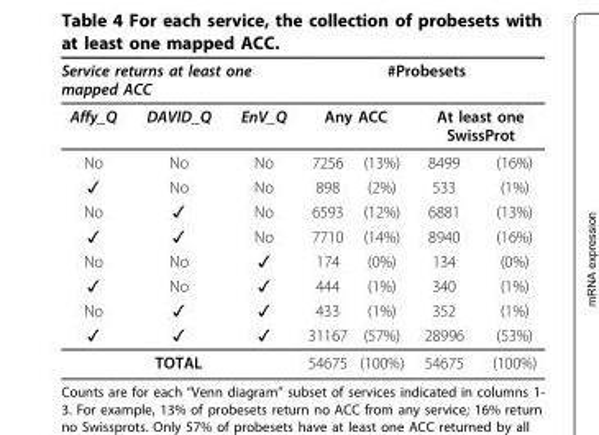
<table><thead><tr><td colspan="3">Service returns at least one mapped ACC</td><td colspan="4">#Probesets</td></tr><tr><td rowspan="2">Affy_Q No</td><td rowspan="2">DAVID_Q No</td><td rowspan="2">EnV_Q No</td><td colspan="2">Any ACC</td><td colspan="2">At least one SwissProt</td></tr><tr><td>7256</td><td>(13%)</td><td>8499</td><td>(16%)</td></tr></thead><tbody><tr><td>✓</td><td>No</td><td>No</td><td>898</td><td>(2%)</td><td>533</td><td>(1%)</td></tr><tr><td>No</td><td>✓</td><td>No</td><td>6593</td><td>(12%)</td><td>6881</td><td>(13%)</td></tr><tr><td>✓</td><td>✓</td><td>No</td><td>7710</td><td>(14%)</td><td>8940</td><td>(16%)</td></tr><tr><td>No</td><td>No</td><td>✓</td><td>174</td><td>(0%)</td><td>134</td><td>(0%)</td></tr><tr><td>✓</td><td>No</td><td>✓</td><td>444</td><td>(1%)</td><td>340</td><td>(1%)</td></tr><tr><td>No</td><td>✓</td><td>✓</td><td>433</td><td>(1%)</td><td>352</td><td>(1%)</td></tr><tr><td>✓</td><td>✓</td><td>✓</td><td>31167</td><td>(57%)</td><td>28996</td><td>(53%)</td></tr><tr><td colspan="3">TOTAL</td><td>54675</td><td>(100%)</td><td>54675</td><td>(100%)</td></tr></tbody></table>